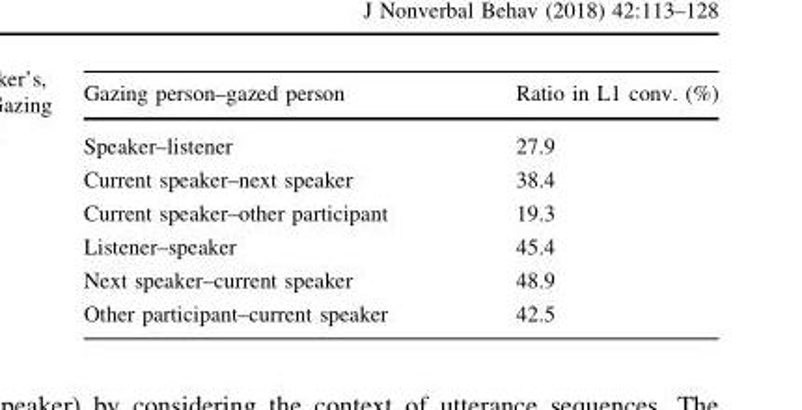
<table><thead><tr><td>Gazing person–gazed person</td><td>Ratio in L1 conv. (%)</td></tr></thead><tbody><tr><td>Speaker–listener</td><td>27.9</td></tr><tr><td>Current speaker–next speaker</td><td>38.4</td></tr><tr><td>Current speaker–other participant</td><td>19.3</td></tr><tr><td>Listener–speaker</td><td>45.4</td></tr><tr><td>Next speaker–current speaker</td><td>48.9</td></tr><tr><td>Other participant–current speaker</td><td>42.5</td></tr></tbody></table>